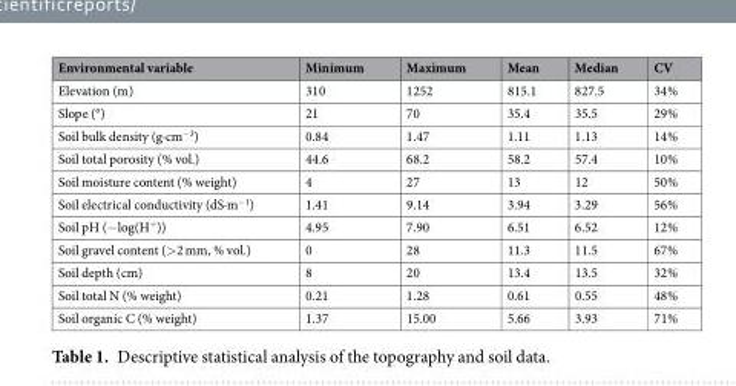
<table><thead><tr><td>Environmental variable</td><td>Minimum</td><td>Maximum</td><td>Mean</td><td>Median</td><td>CV</td></tr></thead><tbody><tr><td>Elevation (m)</td><td>310</td><td>1252</td><td>815.1</td><td>827.5</td><td>34%</td></tr><tr><td>Slope (°)</td><td>21</td><td>70</td><td>35.4</td><td>35.5</td><td>29%</td></tr><tr><td>Soil bulk density (g·cm<sup>−3</sup>)</td><td>0.84</td><td>1.47</td><td>1.11</td><td>1.13</td><td>14%</td></tr><tr><td>Soil total porosity (% vol.)</td><td>44.6</td><td>68.2</td><td>58.2</td><td>57.4</td><td>10%</td></tr><tr><td>Soil moisture content (% weight)</td><td>4</td><td>27</td><td>13</td><td>12</td><td>50%</td></tr><tr><td>Soil electrical conductivity (dS·m<sup>−1</sup>)</td><td>1.41</td><td>9.14</td><td>3.94</td><td>3.29</td><td>56%</td></tr><tr><td>Soil pH (−log(H<sup>+</sup>))</td><td>4.95</td><td>7.90</td><td>6.51</td><td>6.52</td><td>12%</td></tr><tr><td>Soil gravel content (&gt;2 mm, % vol.)</td><td>0</td><td>28</td><td>11.3</td><td>11.5</td><td>67%</td></tr><tr><td>Soil depth (cm)</td><td>8</td><td>20</td><td>13.4</td><td>13.5</td><td>32%</td></tr><tr><td>Soil total N (% weight)</td><td>0.21</td><td>1.28</td><td>0.61</td><td>0.55</td><td>48%</td></tr><tr><td>Soil organic C (% weight)</td><td>1.37</td><td>15.00</td><td>5.66</td><td>3.93</td><td>71%</td></tr></tbody></table>